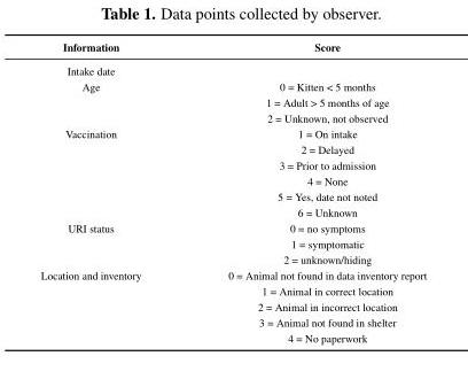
<table><thead><tr><td>Information</td><td>Score</td></tr></thead><tbody><tr><td colspan="2">Intake date</td></tr><tr><td rowspan="3">Age</td><td>0 = Kitten &lt; 5 months</td></tr><tr><td>1 = Adult &gt; 5 months of age</td></tr><tr><td>2 = Unknown, not observed</td></tr><tr><td rowspan="6">Vaccination</td><td>1 = On intake</td></tr><tr><td>2 = Delayed</td></tr><tr><td>3 = Prior to admission</td></tr><tr><td>4 = None</td></tr><tr><td>5 = Yes, date not noted</td></tr><tr><td>6 = Unknown</td></tr><tr><td rowspan="3">URI status</td><td>0 = no symptoms</td></tr><tr><td>1 = symptomatic</td></tr><tr><td>2 = unknown/hiding</td></tr><tr><td rowspan="5">Location and inventory</td><td>0 = Animal not found in data inventory report</td></tr><tr><td>1 = Animal in correct location</td></tr><tr><td>2 = Animal in incorrect location</td></tr><tr><td>3 = Animal not found in shelter</td></tr><tr><td>4 = No paperwork</td></tr></tbody></table>